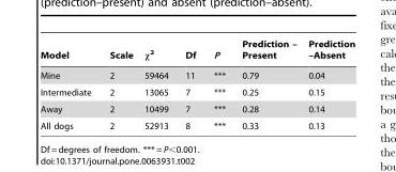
<table><thead><tr><td>Model</td><td>Scale</td><td>x2</td><td>Df</td><td>P</td><td>Prediction – Present</td><td>Prediction –Absent</td></tr></thead><tbody><tr><td>Mine</td><td>2</td><td>59464</td><td>11</td><td>***</td><td>0.79</td><td>0.04</td></tr><tr><td>Intermediate</td><td>2</td><td>13065</td><td>7</td><td>***</td><td>0.25</td><td>0.15</td></tr><tr><td>Away</td><td>2</td><td>10499</td><td>7</td><td>***</td><td>0.28</td><td>0.14</td></tr><tr><td>All dogs</td><td>2</td><td>52913</td><td>8</td><td>***</td><td>0.33</td><td>0.13</td></tr></tbody></table>